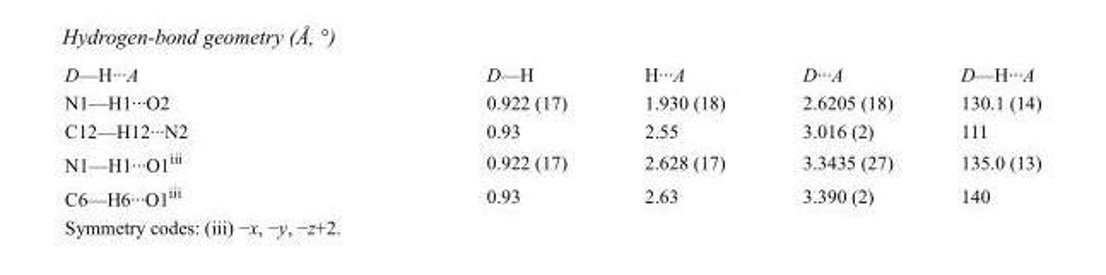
<table><tbody><tr><td>D—H···A</td><td>D—H</td><td>H···A</td><td>D···A</td><td>D—H···A</td></tr><tr><td>N1—H1···O2</td><td>0.922 (17)</td><td>1.930 (18)</td><td>2.6205 (18)</td><td>130.1 (14)</td></tr><tr><td>C12—H12···N2</td><td>0.93</td><td>2.55</td><td>3.016 (2)</td><td>111</td></tr><tr><td>N1—H1···O1<sup>iii</sup></td><td>0.922 (17)</td><td>2.628 (17)</td><td>3.3435 (27)</td><td>135.0 (13)</td></tr><tr><td>C6—H6···O1<sup>iii</sup></td><td>0.93</td><td>2.63</td><td>3.390 (2)</td><td>140</td></tr></tbody></table>